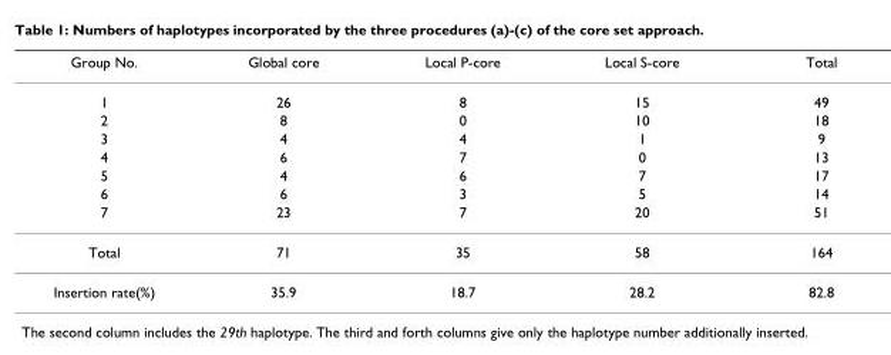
<table><thead><tr><td>Group No.</td><td>Global core</td><td>Local P-core</td><td>Local S-core</td><td>Total</td></tr></thead><tbody><tr><td>1</td><td>26</td><td>8</td><td>15</td><td>49</td></tr><tr><td>2</td><td>8</td><td>0</td><td>10</td><td>18</td></tr><tr><td>3</td><td>4</td><td>4</td><td>1</td><td>9</td></tr><tr><td>4</td><td>6</td><td>7</td><td>0</td><td>13</td></tr><tr><td>5</td><td>4</td><td>6</td><td>7</td><td>17</td></tr><tr><td>6</td><td>6</td><td>3</td><td>5</td><td>14</td></tr><tr><td>7</td><td>23</td><td>7</td><td>20</td><td>51</td></tr><tr><td>Total</td><td>71</td><td>35</td><td>58</td><td>164</td></tr><tr><td>Insertion rate(%)</td><td>35.9</td><td>18.7</td><td>28.2</td><td>82.8</td></tr></tbody></table>